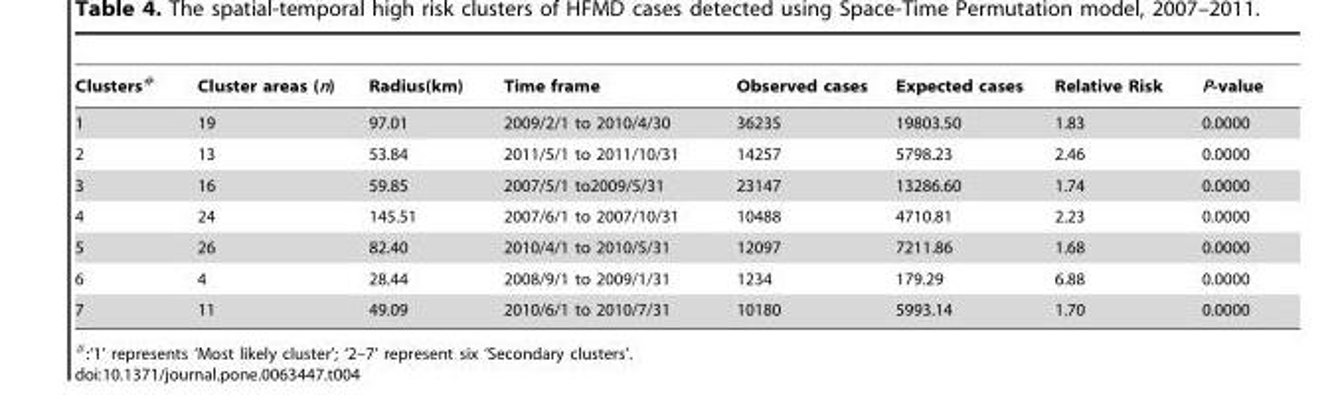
<table><thead><tr><td>Clusters#</td><td>Cluster areas (n)</td><td>Radius(km)</td><td>Time frame</td><td>Observed cases</td><td>Expected cases</td><td>Relative Risk</td><td>P-value</td></tr></thead><tbody><tr><td>1</td><td>19</td><td>97.01</td><td>2009/2/1 to 2010/4/30</td><td>36235</td><td>19803.50</td><td>1.83</td><td>0.0000</td></tr><tr><td>2</td><td>13</td><td>53.84</td><td>2011/5/1 to 2011/10/31</td><td>14257</td><td>5798.23</td><td>2.46</td><td>0.0000</td></tr><tr><td>3</td><td>16</td><td>59.85</td><td>2007/5/1 to2009/5/31</td><td>23147</td><td>13286.60</td><td>1.74</td><td>0.0000</td></tr><tr><td>4</td><td>24</td><td>145.51</td><td>2007/6/1 to 2007/10/31</td><td>10488</td><td>4710.81</td><td>2.23</td><td>0.0000</td></tr><tr><td>5</td><td>26</td><td>82.40</td><td>2010/4/1 to 2010/5/31</td><td>12097</td><td>7211.86</td><td>1.68</td><td>0.0000</td></tr><tr><td>6</td><td>4</td><td>28.44</td><td>2008/9/1 to 2009/1/31</td><td>1234</td><td>179.29</td><td>6.88</td><td>0.0000</td></tr><tr><td>7</td><td>11</td><td>49.09</td><td>2010/6/1 to 2010/7/31</td><td>10180</td><td>5993.14</td><td>1.70</td><td>0.0000</td></tr></tbody></table>